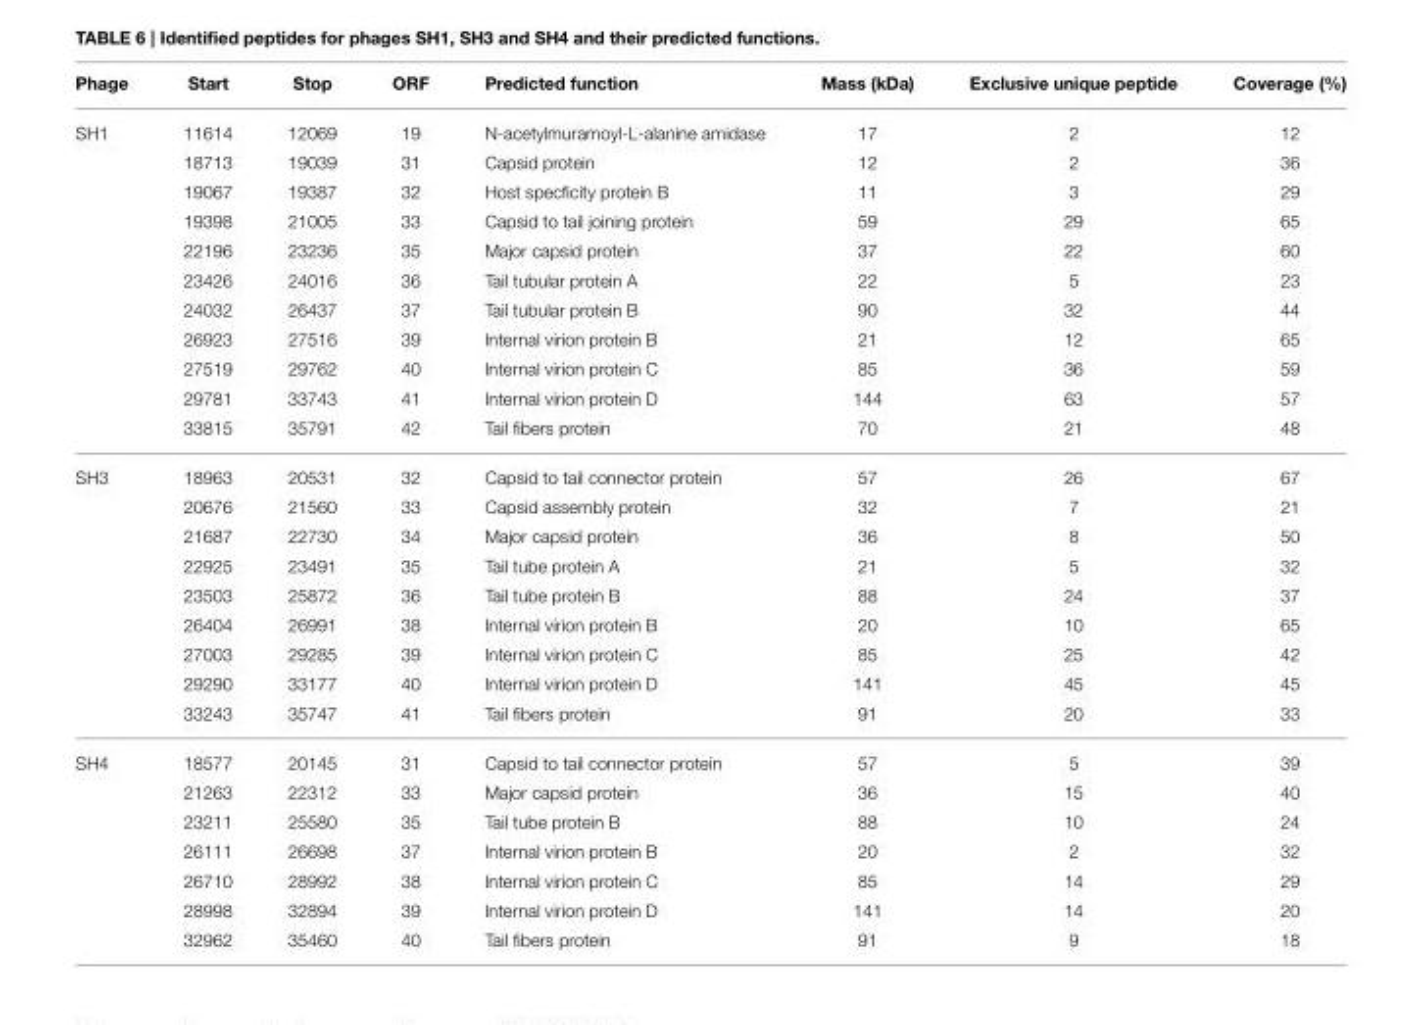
<table><thead><tr><td>Phage</td><td>Start</td><td>Stop</td><td>ORF</td><td>Predicted function</td><td>Mass (kDa)</td><td>Exclusive unique peptide</td><td>Coverage (%)</td></tr></thead><tbody><tr><td rowspan="11">SH1</td><td>11614</td><td>12069</td><td>19</td><td>N-acetylmuramoyl-L-alanine amidase</td><td>17</td><td>2</td><td>12</td></tr><tr><td>18713</td><td>19039</td><td>31</td><td>Capsid protein</td><td>12</td><td>2</td><td>36</td></tr><tr><td>19067</td><td>19387</td><td>32</td><td>Host specficity protein B</td><td>11</td><td>3</td><td>29</td></tr><tr><td>19398</td><td>21005</td><td>33</td><td>Capsid to tail joining protein</td><td>59</td><td>29</td><td>65</td></tr><tr><td>22196</td><td>23236</td><td>35</td><td>Major capsid protein</td><td>37</td><td>22</td><td>60</td></tr><tr><td>23426</td><td>24016</td><td>36</td><td>Tail tubular protein A</td><td>22</td><td>5</td><td>23</td></tr><tr><td>24032</td><td>26437</td><td>37</td><td>Tail tubular protein B</td><td>90</td><td>32</td><td>44</td></tr><tr><td>26923</td><td>27516</td><td>39</td><td>Internal virion protein B</td><td>21</td><td>12</td><td>65</td></tr><tr><td>27519</td><td>29762</td><td>40</td><td>Internal virion protein C</td><td>85</td><td>36</td><td>59</td></tr><tr><td>29781</td><td>33743</td><td>41</td><td>Internal virion protein D</td><td>144</td><td>63</td><td>57</td></tr><tr><td>33815</td><td>35791</td><td>42</td><td>Tail fibers protein</td><td>70</td><td>21</td><td>48</td></tr><tr><td rowspan="9">SH3</td><td>18963</td><td>20531</td><td>32</td><td>Capsid to tail connector protein</td><td>57</td><td>26</td><td>67</td></tr><tr><td>20676</td><td>21560</td><td>33</td><td>Capsid assembly protein</td><td>32</td><td>7</td><td>21</td></tr><tr><td>21687</td><td>22730</td><td>34</td><td>Major capsid protein</td><td>36</td><td>8</td><td>50</td></tr><tr><td>22925</td><td>23491</td><td>35</td><td>Tail tube protein A</td><td>21</td><td>5</td><td>32</td></tr><tr><td>23503</td><td>25872</td><td>36</td><td>Tail tube protein B</td><td>88</td><td>24</td><td>37</td></tr><tr><td>26404</td><td>26991</td><td>38</td><td>Internal virion protein B</td><td>20</td><td>10</td><td>65</td></tr><tr><td>27003</td><td>29285</td><td>39</td><td>Internal virion protein C</td><td>85</td><td>25</td><td>42</td></tr><tr><td>29290</td><td>33177</td><td>40</td><td>Internal virion protein D</td><td>141</td><td>45</td><td>45</td></tr><tr><td>33243</td><td>35747</td><td>41</td><td>Tail fibers protein</td><td>91</td><td>20</td><td>33</td></tr><tr><td rowspan="7">SH4</td><td>18577</td><td>20145</td><td>31</td><td>Capsid to tail connector protein</td><td>57</td><td>5</td><td>39</td></tr><tr><td>21263</td><td>22312</td><td>33</td><td>Major capsid protein</td><td>36</td><td>15</td><td>40</td></tr><tr><td>23211</td><td>25580</td><td>35</td><td>Tail tube protein B</td><td>88</td><td>10</td><td>24</td></tr><tr><td>26111</td><td>26698</td><td>37</td><td>Internal virion protein B</td><td>20</td><td>2</td><td>32</td></tr><tr><td>26710</td><td>28992</td><td>38</td><td>Internal virion protein C</td><td>85</td><td>14</td><td>29</td></tr><tr><td>28998</td><td>32894</td><td>39</td><td>Internal virion protein D</td><td>141</td><td>14</td><td>20</td></tr><tr><td>32962</td><td>35460</td><td>40</td><td>Tail fibers protein</td><td>91</td><td>9</td><td>18</td></tr></tbody></table>